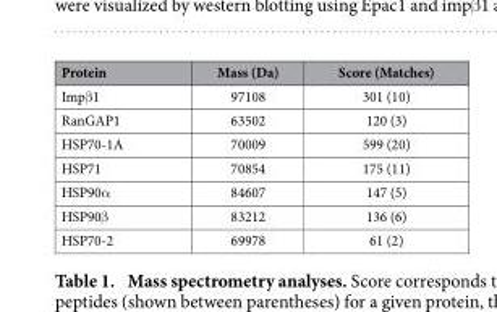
<table><thead><tr><td>Protein</td><td>Mass (Da)</td><td>Score (Matches)</td></tr></thead><tbody><tr><td>Impβ 1</td><td>97108</td><td>301 (10)</td></tr><tr><td>RanGAP1</td><td>63502</td><td>120 (3)</td></tr><tr><td>HSP70-1A</td><td>70009</td><td>599 (20)</td></tr><tr><td>HSP71</td><td>70854</td><td>175 (11)</td></tr><tr><td>HSP90α</td><td>84607</td><td>147 (5)</td></tr><tr><td>HSP90β</td><td>83212</td><td>136 (6)</td></tr><tr><td>HSP70-2</td><td>69978</td><td>61 (2)</td></tr></tbody></table>